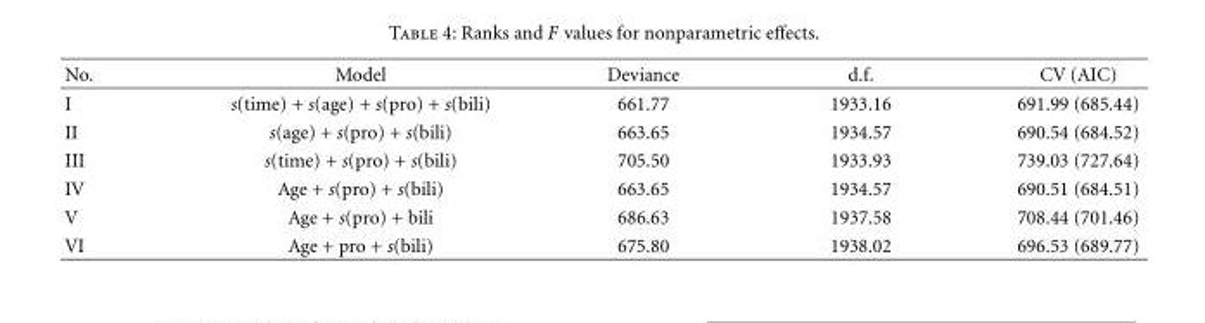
<table><thead><tr><td>No.</td><td>Model</td><td>Deviance</td><td>d.f.</td><td>CV (AIC)</td></tr></thead><tbody><tr><td>I</td><td>s(time) + s(age) + s(pro) + s(bili)</td><td>661.77</td><td>1933.16</td><td>691.99 (685.44)</td></tr><tr><td>II</td><td>s(age) + s(pro) + s(bili)</td><td>663.65</td><td>1934.57</td><td>690.54 (684.52)</td></tr><tr><td>III</td><td>s(time) + s(pro) + s(bili)</td><td>705.50</td><td>1933.93</td><td>739.03 (727.64)</td></tr><tr><td>IV</td><td>Age + s(pro) + s(bili)</td><td>663.65</td><td>1934.57</td><td>690.51 (684.51)</td></tr><tr><td>V</td><td>Age + s(pro) + bili</td><td>686.63</td><td>1937.58</td><td>708.44 (701.46)</td></tr><tr><td>VI</td><td>Age + pro + s(bili)</td><td>675.80</td><td>1938.02</td><td>696.53 (689.77)</td></tr></tbody></table>